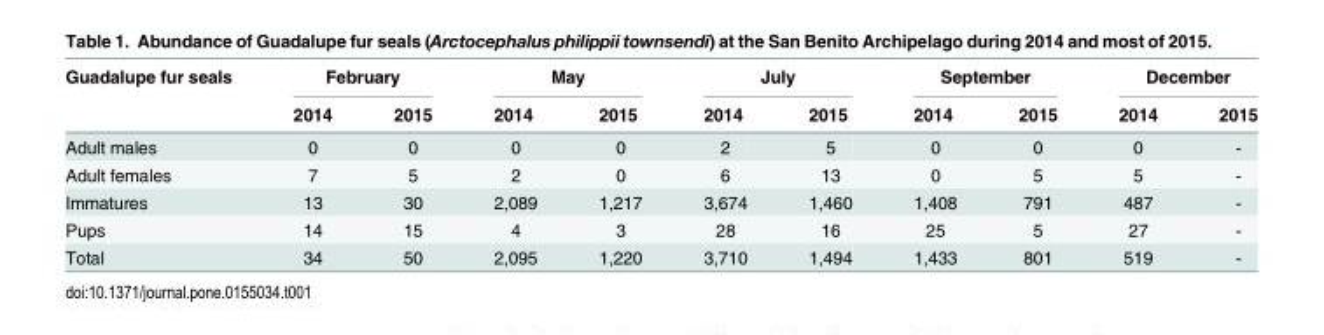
<table><thead><tr><td rowspan="2">Guadalupe fur seals</td><td colspan="2">February</td><td colspan="2">May</td><td colspan="2">July</td><td colspan="2">September</td><td colspan="2">December</td></tr><tr><td>2014</td><td>2015</td><td>2014</td><td>2015</td><td>2014</td><td>2015</td><td>2014</td><td>2015</td><td>2014</td><td>2015</td></tr></thead><tbody><tr><td>Adult males</td><td>0</td><td>0</td><td>0</td><td>0</td><td>2</td><td>5</td><td>0</td><td>0</td><td>0</td><td>-</td></tr><tr><td>Adult females</td><td>7</td><td>5</td><td>2</td><td>0</td><td>6</td><td>13</td><td>0</td><td>5</td><td>5</td><td>-</td></tr><tr><td>Immatures</td><td>13</td><td>30</td><td>2,089</td><td>1,217</td><td>3,674</td><td>1,460</td><td>1,408</td><td>791</td><td>487</td><td>-</td></tr><tr><td>Pups</td><td>14</td><td>15</td><td>4</td><td>3</td><td>28</td><td>16</td><td>25</td><td>5</td><td>27</td><td>-</td></tr><tr><td>Total</td><td>34</td><td>50</td><td>2,095</td><td>1,220</td><td>3,710</td><td>1,494</td><td>1,433</td><td>801</td><td>519</td><td>-</td></tr></tbody></table>